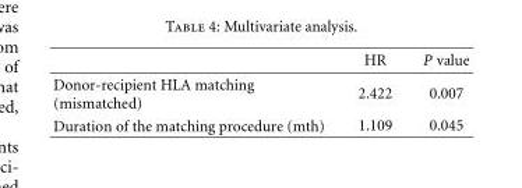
<table><thead><tr><td></td><td>HR</td><td>P value</td></tr></thead><tbody><tr><td>Donor-recipient HLA matching (mismatched)</td><td>2.422</td><td>0.007</td></tr><tr><td>Duration of the matching procedure (mth)</td><td>1.109</td><td>0.045</td></tr></tbody></table>